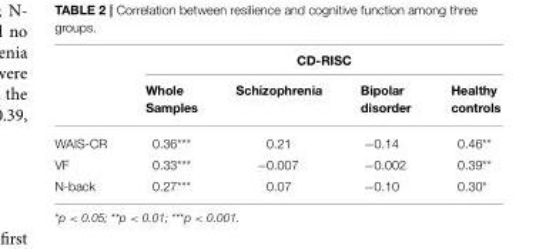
<table><thead><tr><td rowspan="2"></td><td colspan="4">CD-RISC</td></tr><tr><td>Whole Samples</td><td>Schizophrenia</td><td>Bipolar disorder</td><td>Healthy controls</td></tr></thead><tbody><tr><td>WAIS-CR</td><td>0.36***</td><td>0.21</td><td>−0.14</td><td>0.46**</td></tr><tr><td>VF</td><td>0.33***</td><td>−0.007</td><td>−0.002</td><td>0.39**</td></tr><tr><td>N-back</td><td>0.27***</td><td>0.07</td><td>−0.10</td><td>0.30*</td></tr></tbody></table>